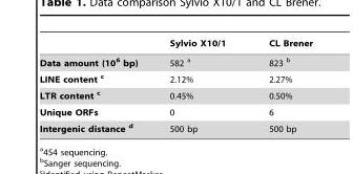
<table><thead><tr><td></td><td>Sylvio X10/1</td><td>CL Brener</td></tr></thead><tbody><tr><td>Data amount (10<sup>6</sup> bp)</td><td>582 a</td><td>823 b</td></tr><tr><td>LINE content c</td><td>2.12%</td><td>2.27%</td></tr><tr><td>LTR content c</td><td>0.45%</td><td>0.50%</td></tr><tr><td>Unique ORFs</td><td>0</td><td>6</td></tr><tr><td>Intergenic distance d</td><td>500 bp</td><td>500 bp</td></tr></tbody></table>